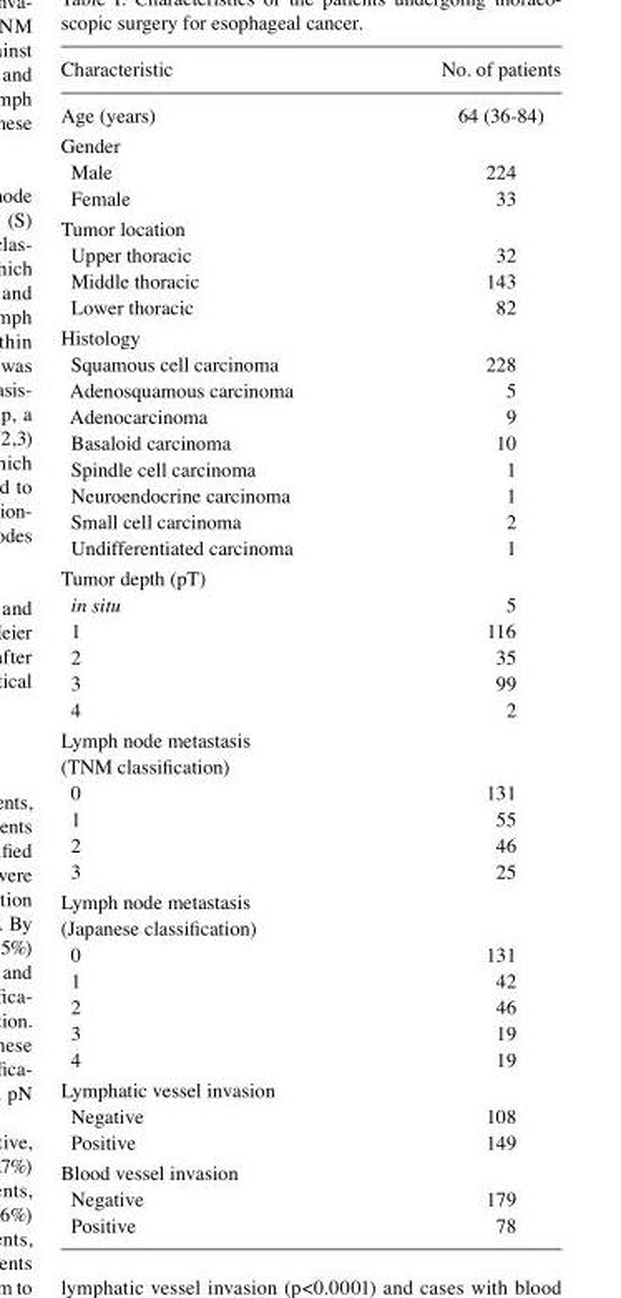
<table><thead><tr><td>Characteristic</td><td>No. of patients</td></tr></thead><tbody><tr><td>Age (years)</td><td>64 (36-84)</td></tr><tr><td colspan="2">Gender</td></tr><tr><td>Male</td><td>224</td></tr><tr><td>Female</td><td>33</td></tr><tr><td colspan="2">Tumor location</td></tr><tr><td>Upper thoracic</td><td>32</td></tr><tr><td>Middle thoracic</td><td>143</td></tr><tr><td>Lower thoracic</td><td>82</td></tr><tr><td colspan="2">Histology</td></tr><tr><td>Squamous cell carcinoma</td><td>228</td></tr><tr><td>Adenosquamous carcinoma</td><td>5</td></tr><tr><td>Adenocarcinoma</td><td>9</td></tr><tr><td>Basaloid carcinoma</td><td>10</td></tr><tr><td>Spindle cell carcinoma</td><td>1</td></tr><tr><td>Neuroendocrine carcinoma</td><td>1</td></tr><tr><td>Small cell carcinoma</td><td>2</td></tr><tr><td>Undifferentiated carcinoma</td><td>1</td></tr><tr><td colspan="2">Tumor depth (pT)</td></tr><tr><td>in situ</td><td>5</td></tr><tr><td>1</td><td>116</td></tr><tr><td>2</td><td>35</td></tr><tr><td>3</td><td>99</td></tr><tr><td>4</td><td>2</td></tr><tr><td colspan="2">Lymph node metastasis (TNM classification)</td></tr><tr><td>0</td><td>131</td></tr><tr><td>1</td><td>55</td></tr><tr><td>2</td><td>46</td></tr><tr><td>3</td><td>25</td></tr><tr><td colspan="2">Lymph node metastasis (Japanese classification)</td></tr><tr><td>0</td><td>131</td></tr><tr><td>1</td><td>42</td></tr><tr><td>2</td><td>46</td></tr><tr><td>3</td><td>19</td></tr><tr><td>4</td><td>19</td></tr><tr><td colspan="2">Lymphatic vessel invasion</td></tr><tr><td>Negative</td><td>108</td></tr><tr><td>Positive</td><td>149</td></tr><tr><td colspan="2">Blood vessel invasion</td></tr><tr><td>Negative</td><td>179</td></tr><tr><td>Positive</td><td>78</td></tr></tbody></table>